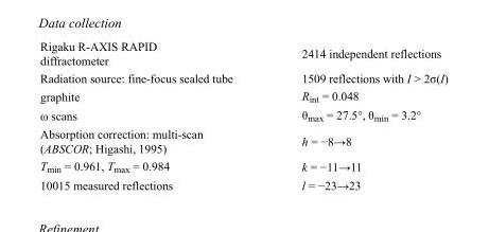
<table><tbody><tr><td>Rigaku R-AXIS RAPID diffractometer</td><td>2414 independent reflections</td></tr><tr><td>Radiation source: fine-focus sealed tube</td><td>1509 reflections with I &gt; 2σ(I)</td></tr><tr><td>graphite</td><td>R<sub>int</sub> = 0.048</td></tr><tr><td>ω scans</td><td>θ<sub>max</sub> = 27.5°, θ<sub>min</sub> = 3.2°</td></tr><tr><td>Absorption correction: multi-scan (ABSCOR; Higashi, 1995)</td><td>h = −8→8</td></tr><tr><td>T<sub>min</sub> = 0.961, T<sub>max</sub> = 0.984</td><td>k = −11→11</td></tr><tr><td>10015 measured reflections</td><td>l = −23→23</td></tr></tbody></table>